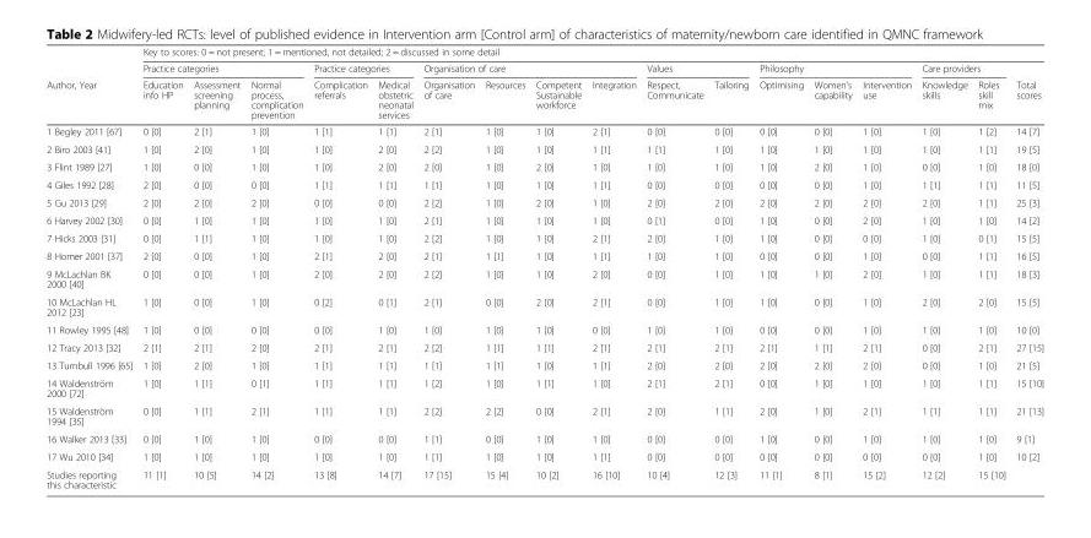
<table><thead><tr><td rowspan="3">Author, Year</td><td colspan="17">Key to scores: 0 = not present; 1 = mentioned, not detailed; 2 = discussed in some detail</td></tr><tr><td colspan="3">Practice categories</td><td colspan="2">Practice categories</td><td colspan="4">Organisation of care</td><td colspan="2">Values</td><td colspan="3">Philosophy</td><td colspan="2">Care providers</td><td rowspan="2">Total scores</td></tr><tr><td>Education info HP</td><td>Assessment screening planning</td><td>Normal process, complication prevention</td><td>Complication referrals</td><td>Medical obstetric neonatal services</td><td>Organisation of care</td><td>Resources</td><td>Competent Sustainable workforce</td><td>Integration</td><td>Respect, Communicate</td><td>Tailoring</td><td>Optimising</td><td>Women’s capability</td><td>Intervention use</td><td>Knowledge skills</td><td>Roles skill mix</td></tr></thead><tbody><tr><td>1 Begley 2011 [67]</td><td>0 [0]</td><td>2 [1]</td><td>1 [0]</td><td>1 [1]</td><td>1 [1]</td><td>2 [1]</td><td>1 [0]</td><td>1 [0]</td><td>2 [1]</td><td>0 [0]</td><td>0 [0]</td><td>0 [0]</td><td>0 [0]</td><td>1 [0]</td><td>1 [0]</td><td>1 [2]</td><td>14 [7]</td></tr><tr><td>2 Biro 2003 [41]</td><td>1 [0]</td><td>2 [0]</td><td>1 [0]</td><td>1 [0]</td><td>2 [0]</td><td>2 [2]</td><td>1 [0]</td><td>1 [0]</td><td>1 [1]</td><td>1 [1]</td><td>1 [0]</td><td>1 [0]</td><td>1 [0]</td><td>1 [0]</td><td>1 [0]</td><td>1 [1]</td><td>19 [5]</td></tr><tr><td>3 Flint 1989 [27]</td><td>1 [0]</td><td>0 [0]</td><td>1 [0]</td><td>1 [0]</td><td>2 [0]</td><td>2 [0]</td><td>1 [0]</td><td>2 [0]</td><td>1 [0]</td><td>1 [0]</td><td>1 [0]</td><td>1 [0]</td><td>2 [0]</td><td>1 [0]</td><td>0 [0]</td><td>1 [0]</td><td>18 [0]</td></tr><tr><td>4 Giles 1992 [28]</td><td>2 [0]</td><td>0 [0]</td><td>0 [0]</td><td>1 [1]</td><td>1 [1]</td><td>1 [1]</td><td>1 [0]</td><td>1 [0]</td><td>1 [1]</td><td>0 [0]</td><td>0 [0]</td><td>0 [0]</td><td>0 [0]</td><td>1 [0]</td><td>1 [1]</td><td>1 [1]</td><td>11 [5]</td></tr><tr><td>5 Gu 2013 [29]</td><td>2 [0]</td><td>2 [0]</td><td>2 [0]</td><td>0 [0]</td><td>0 [0]</td><td>2 [2]</td><td>1 [0]</td><td>2 [0]</td><td>1 [0]</td><td>2 [0]</td><td>2 [0]</td><td>2 [0]</td><td>2 [0]</td><td>2 [0]</td><td>2 [0]</td><td>1 [1]</td><td>25 [3]</td></tr><tr><td>6 Harvey 2002 [30]</td><td>0 [0]</td><td>1 [0]</td><td>1 [0]</td><td>1 [0]</td><td>1 [0]</td><td>2 [1]</td><td>1 [0]</td><td>1 [0]</td><td>1 [0]</td><td>0 [1]</td><td>0 [0]</td><td>1 [0]</td><td>0 [0]</td><td>2 [0]</td><td>1 [0]</td><td>1 [0]</td><td>14 [2]</td></tr><tr><td>7 Hicks 2003 [31]</td><td>0 [0]</td><td>1 [1]</td><td>1 [0]</td><td>1 [0]</td><td>1 [0]</td><td>2 [2]</td><td>1 [0]</td><td>1 [0]</td><td>2 [1]</td><td>2 [0]</td><td>1 [0]</td><td>1 [0]</td><td>0 [0]</td><td>0 [0]</td><td>1 [0]</td><td>0 [1]</td><td>15 [5]</td></tr><tr><td>8 Homer 2001 [37]</td><td>2 [0]</td><td>0 [0]</td><td>1 [0]</td><td>2 [1]</td><td>2 [0]</td><td>2 [1]</td><td>1 [1]</td><td>1 [0]</td><td>1 [1]</td><td>1 [0]</td><td>1 [0]</td><td>0 [0]</td><td>0 [0]</td><td>1 [0]</td><td>0 [0]</td><td>1 [1]</td><td>16 [5]</td></tr><tr><td>9 McLachlan BK 2000 [40]</td><td>0 [0]</td><td>0 [0]</td><td>1 [0]</td><td>2 [0]</td><td>2 [0]</td><td>2 [2]</td><td>1 [0]</td><td>1 [0]</td><td>2 [0]</td><td>0 [0]</td><td>1 [0]</td><td>1 [0]</td><td>1 [0]</td><td>2 [0]</td><td>1 [0]</td><td>1 [1]</td><td>18 [3]</td></tr><tr><td>10 McLachlan HL 2012 [23]</td><td>1 [0]</td><td>0 [0]</td><td>1 [0]</td><td>0 [2]</td><td>0 [1]</td><td>2 [1]</td><td>0 [0]</td><td>2 [0]</td><td>2 [1]</td><td>0 [0]</td><td>1 [0]</td><td>1 [0]</td><td>0 [0]</td><td>1 [0]</td><td>2 [0]</td><td>2 [0]</td><td>15 [5]</td></tr><tr><td>11 Rowley 1995 [48]</td><td>1 [0]</td><td>0 [0]</td><td>0 [0]</td><td>0 [0]</td><td>1 [0]</td><td>1 [0]</td><td>1 [0]</td><td>1 [0]</td><td>0 [0]</td><td>1 [0]</td><td>1 [0]</td><td>0 [0]</td><td>0 [0]</td><td>1 [0]</td><td>1 [0]</td><td>1 [0]</td><td>10 [0]</td></tr><tr><td>12 Tracy 2013 [32]</td><td>2 [1]</td><td>2 [1]</td><td>2 [0]</td><td>2 [1]</td><td>2 [1]</td><td>2 [2]</td><td>1 [1]</td><td>1 [1]</td><td>2 [1]</td><td>2 [1]</td><td>2 [1]</td><td>2 [1]</td><td>1 [1]</td><td>2 [1]</td><td>0 [0]</td><td>2 [1]</td><td>27 [15]</td></tr><tr><td>13 Turnbull 1996 [65]</td><td>1 [0]</td><td>2 [0]</td><td>1 [0]</td><td>1 [1]</td><td>1 [1]</td><td>1 [1]</td><td>1 [1]</td><td>1 [0]</td><td>1 [1]</td><td>2 [0]</td><td>2 [0]</td><td>2 [0]</td><td>2 [0]</td><td>2 [0]</td><td>0 [0]</td><td>1 [0]</td><td>21 [5]</td></tr><tr><td>14 Waldenström 2000 [72]</td><td>1 [0]</td><td>1 [1]</td><td>0 [1]</td><td>1 [1]</td><td>1 [1]</td><td>1 [2]</td><td>1 [0]</td><td>1 [1]</td><td>1 [0]</td><td>2 [1]</td><td>2 [1]</td><td>0 [0]</td><td>1 [0]</td><td>1 [0]</td><td>1 [0]</td><td>1 [1]</td><td>15 [10]</td></tr><tr><td>15 Waldenström 1994 [35]</td><td>0 [0]</td><td>1 [1]</td><td>2 [1]</td><td>1 [1]</td><td>1 [1]</td><td>2 [2]</td><td>2 [2]</td><td>0 [0]</td><td>2 [1]</td><td>2 [0]</td><td>1 [1]</td><td>2 [0]</td><td>1 [0]</td><td>2 [1]</td><td>1 [1]</td><td>1 [1]</td><td>21 [13]</td></tr><tr><td>16 Walker 2013 [33]</td><td>0 [0]</td><td>1 [0]</td><td>1 [0]</td><td>0 [0]</td><td>0 [0]</td><td>1 [1]</td><td>0 [0]</td><td>1 [0]</td><td>1 [0]</td><td>0 [0]</td><td>0 [0]</td><td>1 [0]</td><td>0 [0]</td><td>1 [0]</td><td>1 [0]</td><td>1 [0]</td><td>9 [1]</td></tr><tr><td>17 Wu 2010 [34]</td><td>1 [0]</td><td>1 [0]</td><td>1 [0]</td><td>1 [0]</td><td>1 [0]</td><td>1 [1]</td><td>1 [0]</td><td>1 [0]</td><td>1 [1]</td><td>0 [0]</td><td>0 [0]</td><td>0 [0]</td><td>0 [0]</td><td>0 [0]</td><td>0 [0]</td><td>1 [0]</td><td>10 [2]</td></tr><tr><td>Studies reporting this characteristic</td><td>11 [1]</td><td>10 [5]</td><td>14 [2]</td><td>13 [8]</td><td>14 [7]</td><td>17 [15]</td><td>15 [4]</td><td>10 [2]</td><td>16 [10]</td><td>10 [4]</td><td>12 [3]</td><td>11 [1]</td><td>8 [1]</td><td>15 [2]</td><td>12 [2]</td><td>15 [10]</td><td></td></tr></tbody></table>